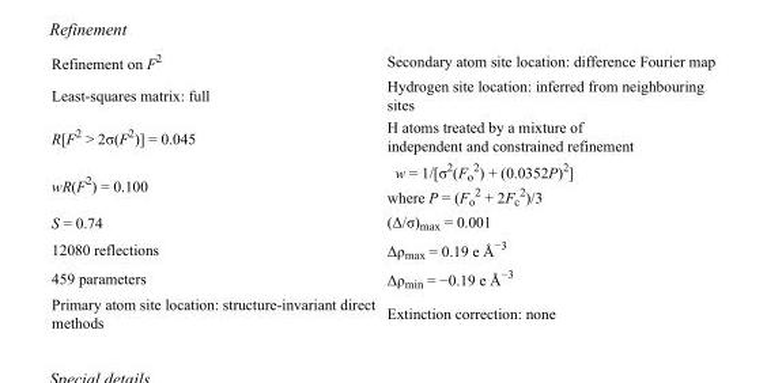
<table><tbody><tr><td>Refinement on F<sup>2</sup></td><td>Secondary atom site location: difference Fourier map</td></tr><tr><td>Least-squares matrix: full</td><td>Hydrogen site location: inferred from neighbouring sites</td></tr><tr><td>R[F<sup>2</sup> &gt; 2σ(F<sup>2</sup>)] = 0.045</td><td>H atoms treated by a mixture of independent and constrained refinement</td></tr><tr><td>wR(F<sup>2</sup>) = 0.100</td><td>w = 1/[σ<sup>2</sup>(F<sub>o</sub> <sup>2</sup>) + (0.0352P)<sup>2</sup>] where P = (F<sub>o</sub> <sup>2</sup> + 2F<sub>c</sub> <sup>2</sup>)/3</td></tr><tr><td>S = 0.74</td><td>(Δ/σ)<sub>max</sub> = 0.001</td></tr><tr><td>12080 reflections</td><td>Δρ<sub>max</sub> = 0.19 e Å<sup>−3</sup></td></tr><tr><td>459 parameters</td><td>Δρ<sub>min</sub> = −0.19 e Å<sup>−3</sup></td></tr><tr><td>Primary atom site location: structure-invariant direct methods</td><td>Extinction correction: none</td></tr></tbody></table>